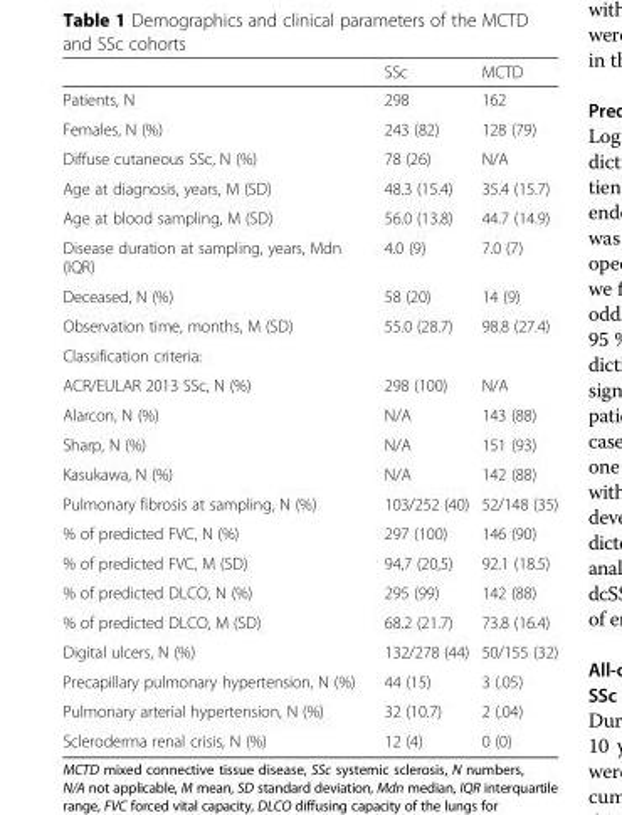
<table><thead><tr><td></td><td>SSc</td><td>MCTD</td></tr></thead><tbody><tr><td>Patients, N</td><td>298</td><td>162</td></tr><tr><td>Females, N (%)</td><td>243 (82)</td><td>128 (79)</td></tr><tr><td>Diffuse cutaneous SSc, N (%)</td><td>78 (26)</td><td>N/A</td></tr><tr><td>Age at diagnosis, years, M (SD)</td><td>48.3 (15.4)</td><td>35.4 (15.7)</td></tr><tr><td>Age at blood sampling, M (SD)</td><td>56.0 (13.8)</td><td>44.7 (14.9)</td></tr><tr><td>Disease duration at sampling, years, Mdn (IQR)</td><td>4.0 (9)</td><td>7.0 (7)</td></tr><tr><td>Deceased, N (%)</td><td>58 (20)</td><td>14 (9)</td></tr><tr><td>Observation time, months, M (SD)</td><td>55.0 (28.7)</td><td>98.8 (27.4)</td></tr><tr><td colspan="3">Classification criteria:</td></tr><tr><td>ACR/EULAR 2013 SSc, N (%)</td><td>298 (100)</td><td>N/A</td></tr><tr><td>Alarcon, N (%)</td><td>N/A</td><td>143 (88)</td></tr><tr><td>Sharp, N (%)</td><td>N/A</td><td>151 (93)</td></tr><tr><td>Kasukawa, N (%)</td><td>N/A</td><td>142 (88)</td></tr><tr><td>Pulmonary fibrosis at sampling, N (%)</td><td>103/252 (40)</td><td>52/148 (35)</td></tr><tr><td>% of predicted FVC, N (%)</td><td>297 (100)</td><td>146 (90)</td></tr><tr><td>% of predicted FVC, M (SD)</td><td>94,7 (20,5)</td><td>92.1 (18.5)</td></tr><tr><td>% of predicted DLCO, N (%)</td><td>295 (99)</td><td>142 (88)</td></tr><tr><td>% of predicted DLCO, M (SD)</td><td>68.2 (21.7)</td><td>73.8 (16.4)</td></tr><tr><td>Digital ulcers, N (%)</td><td>132/278 (44)</td><td>50/155 (32)</td></tr><tr><td>Precapillary pulmonary hypertension, N (%)</td><td>44 (15)</td><td>3 (.05)</td></tr><tr><td>Pulmonary arterial hypertension, N (%)</td><td>32 (10.7)</td><td>2 (.04)</td></tr><tr><td>Scleroderma renal crisis, N (%)</td><td>12 (4)</td><td>0 (0)</td></tr></tbody></table>